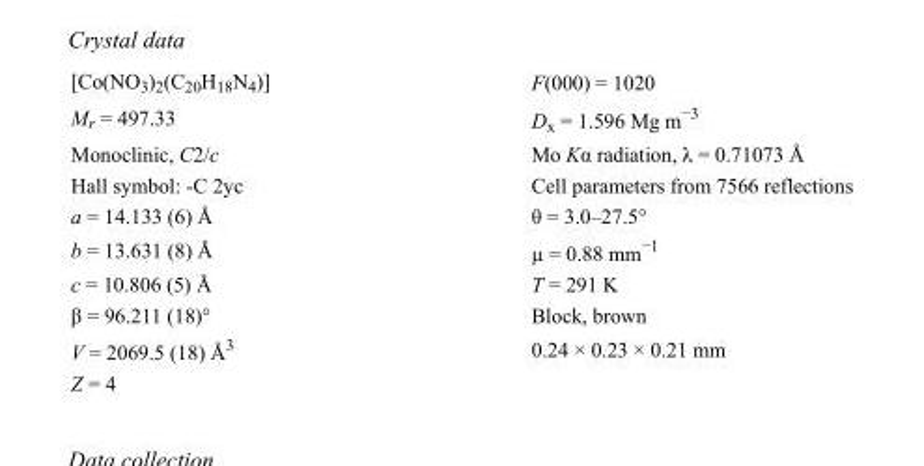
<table><tbody><tr><td>[Co(NO<sub>3</sub>)<sub>2</sub>(C<sub>20</sub>H<sub>18</sub>N<sub>4</sub>)]</td><td>F(000) = 1020</td></tr><tr><td>M<sub>r</sub> = 497.33</td><td>D<sub>x</sub> = 1.596 Mg m<sup>−3</sup></td></tr><tr><td>Monoclinic, C2/c</td><td>Mo Kα radiation, λ = 0.71073 Å</td></tr><tr><td>Hall symbol: -C 2yc</td><td>Cell parameters from 7566 reflections</td></tr><tr><td>a = 14.133 (6) Å</td><td>θ = 3.0–27.5°</td></tr><tr><td>b = 13.631 (8) Å</td><td>µ = 0.88 mm<sup>−1</sup></td></tr><tr><td>c = 10.806 (5) Å</td><td>T = 291 K</td></tr><tr><td>β = 96.211 (18)°</td><td>Block, brown</td></tr><tr><td>V = 2069.5 (18) Å<sup>3</sup></td><td>0.24 × 0.23 × 0.21 mm</td></tr><tr><td>Z = 4</td><td></td></tr></tbody></table>